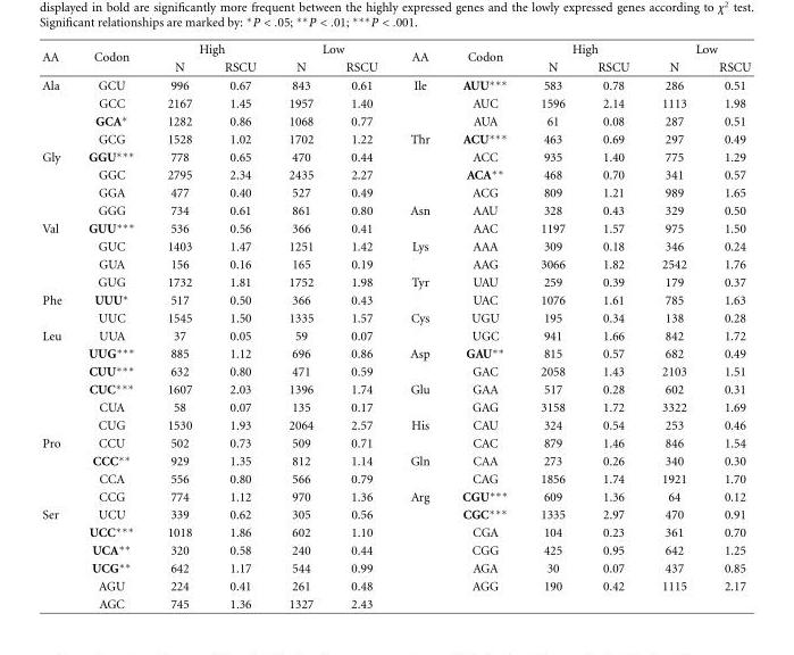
<table><thead><tr><td rowspan="2">AA</td><td rowspan="2">Codon</td><td colspan="2">High</td><td colspan="2">Low</td><td rowspan="2">AA</td><td rowspan="2">Codon</td><td colspan="2">High</td><td colspan="2">Low</td></tr><tr><td>N</td><td>RSCU</td><td>N</td><td>RSCU</td><td>N</td><td>RSCU</td><td>N</td><td>RSCU</td></tr></thead><tbody><tr><td rowspan="4">Ala</td><td>GCU</td><td>996</td><td>0.67</td><td>843</td><td>0.61</td><td>Ile</td><td>AUU∗∗∗</td><td>583</td><td>0.78</td><td>286</td><td>0.51</td></tr><tr><td>GCC</td><td>2167</td><td>1.45</td><td>1957</td><td>1.40</td><td></td><td>AUC</td><td>1596</td><td>2.14</td><td>1113</td><td>1.98</td></tr><tr><td>GCA∗</td><td>1282</td><td>0.86</td><td>1068</td><td>0.77</td><td></td><td>AUA</td><td>61</td><td>0.08</td><td>287</td><td>0.51</td></tr><tr><td>GCG</td><td>1528</td><td>1.02</td><td>1702</td><td>1.22</td><td>Thr</td><td>ACU∗∗∗</td><td>463</td><td>0.69</td><td>297</td><td>0.49</td></tr><tr><td rowspan="4">Gly</td><td>GGU∗∗∗</td><td>778</td><td>0.65</td><td>470</td><td>0.44</td><td></td><td>ACC</td><td>935</td><td>1.40</td><td>775</td><td>1.29</td></tr><tr><td>GGC</td><td>2795</td><td>2.34</td><td>2435</td><td>2.27</td><td></td><td>ACA∗∗</td><td>468</td><td>0.70</td><td>341</td><td>0.57</td></tr><tr><td>GGA</td><td>477</td><td>0.40</td><td>527</td><td>0.49</td><td></td><td>ACG</td><td>809</td><td>1.21</td><td>989</td><td>1.65</td></tr><tr><td>GGG</td><td>734</td><td>0.61</td><td>861</td><td>0.80</td><td>Asn</td><td>AAU</td><td>328</td><td>0.43</td><td>329</td><td>0.50</td></tr><tr><td rowspan="4">Val</td><td>GUU∗∗∗</td><td>536</td><td>0.56</td><td>366</td><td>0.41</td><td></td><td>AAC</td><td>1197</td><td>1.57</td><td>975</td><td>1.50</td></tr><tr><td>GUC</td><td>1403</td><td>1.47</td><td>1251</td><td>1.42</td><td>Lys</td><td>AAA</td><td>309</td><td>0.18</td><td>346</td><td>0.24</td></tr><tr><td>GUA</td><td>156</td><td>0.16</td><td>165</td><td>0.19</td><td></td><td>AAG</td><td>3066</td><td>1.82</td><td>2542</td><td>1.76</td></tr><tr><td>GUG</td><td>1732</td><td>1.81</td><td>1752</td><td>1.98</td><td>Tyr</td><td>UAU</td><td>259</td><td>0.39</td><td>179</td><td>0.37</td></tr><tr><td rowspan="2">Phe</td><td>UUU∗</td><td>517</td><td>0.50</td><td>366</td><td>0.43</td><td></td><td>UAC</td><td>1076</td><td>1.61</td><td>785</td><td>1.63</td></tr><tr><td>UUC</td><td>1545</td><td>1.50</td><td>1335</td><td>1.57</td><td>Cys</td><td>UGU</td><td>195</td><td>0.34</td><td>138</td><td>0.28</td></tr><tr><td rowspan="6">Leu</td><td>UUA</td><td>37</td><td>0.05</td><td>59</td><td>0.07</td><td></td><td>UGC</td><td>941</td><td>1.66</td><td>842</td><td>1.72</td></tr><tr><td>UUG∗∗∗</td><td>885</td><td>1.12</td><td>696</td><td>0.86</td><td>Asp</td><td>GAU∗∗</td><td>815</td><td>0.57</td><td>682</td><td>0.49</td></tr><tr><td>CUU∗∗∗</td><td>632</td><td>0.80</td><td>471</td><td>0.59</td><td></td><td>GAC</td><td>2058</td><td>1.43</td><td>2103</td><td>1.51</td></tr><tr><td>CUC∗∗∗</td><td>1607</td><td>2.03</td><td>1396</td><td>1.74</td><td>Glu</td><td>GAA</td><td>517</td><td>0.28</td><td>602</td><td>0.31</td></tr><tr><td>CUA</td><td>58</td><td>0.07</td><td>135</td><td>0.17</td><td></td><td>GAG</td><td>3158</td><td>1.72</td><td>3322</td><td>1.69</td></tr><tr><td>CUG</td><td>1530</td><td>1.93</td><td>2064</td><td>2.57</td><td>His</td><td>CAU</td><td>324</td><td>0.54</td><td>253</td><td>0.46</td></tr><tr><td rowspan="4">Pro</td><td>CCU</td><td>502</td><td>0.73</td><td>509</td><td>0.71</td><td></td><td>CAC</td><td>879</td><td>1.46</td><td>846</td><td>1.54</td></tr><tr><td>CCC∗∗</td><td>929</td><td>1.35</td><td>812</td><td>1.14</td><td>Gln</td><td>CAA</td><td>273</td><td>0.26</td><td>340</td><td>0.30</td></tr><tr><td>CCA</td><td>556</td><td>0.80</td><td>566</td><td>0.79</td><td></td><td>CAG</td><td>1856</td><td>1.74</td><td>1921</td><td>1.70</td></tr><tr><td>CCG</td><td>774</td><td>1.12</td><td>970</td><td>1.36</td><td>Arg</td><td>CGU∗∗∗</td><td>609</td><td>1.36</td><td>64</td><td>0.12</td></tr><tr><td rowspan="6">Ser</td><td>UCU</td><td>339</td><td>0.62</td><td>305</td><td>0.56</td><td></td><td>CGC∗∗∗</td><td>1335</td><td>2.97</td><td>470</td><td>0.91</td></tr><tr><td>UCC∗∗∗</td><td>1018</td><td>1.86</td><td>602</td><td>1.10</td><td></td><td>CGA</td><td>104</td><td>0.23</td><td>361</td><td>0.70</td></tr><tr><td>UCA∗∗</td><td>320</td><td>0.58</td><td>240</td><td>0.44</td><td></td><td>CGG</td><td>425</td><td>0.95</td><td>642</td><td>1.25</td></tr><tr><td>UCG∗∗</td><td>642</td><td>1.17</td><td>544</td><td>0.99</td><td></td><td>AGA</td><td>30</td><td>0.07</td><td>437</td><td>0.85</td></tr><tr><td>AGU</td><td>224</td><td>0.41</td><td>261</td><td>0.48</td><td></td><td>AGG</td><td>190</td><td>0.42</td><td>1115</td><td>2.17</td></tr><tr><td>AGC</td><td>745</td><td>1.36</td><td>1327</td><td>2.43</td><td></td><td></td><td></td><td></td><td></td><td></td></tr></tbody></table>